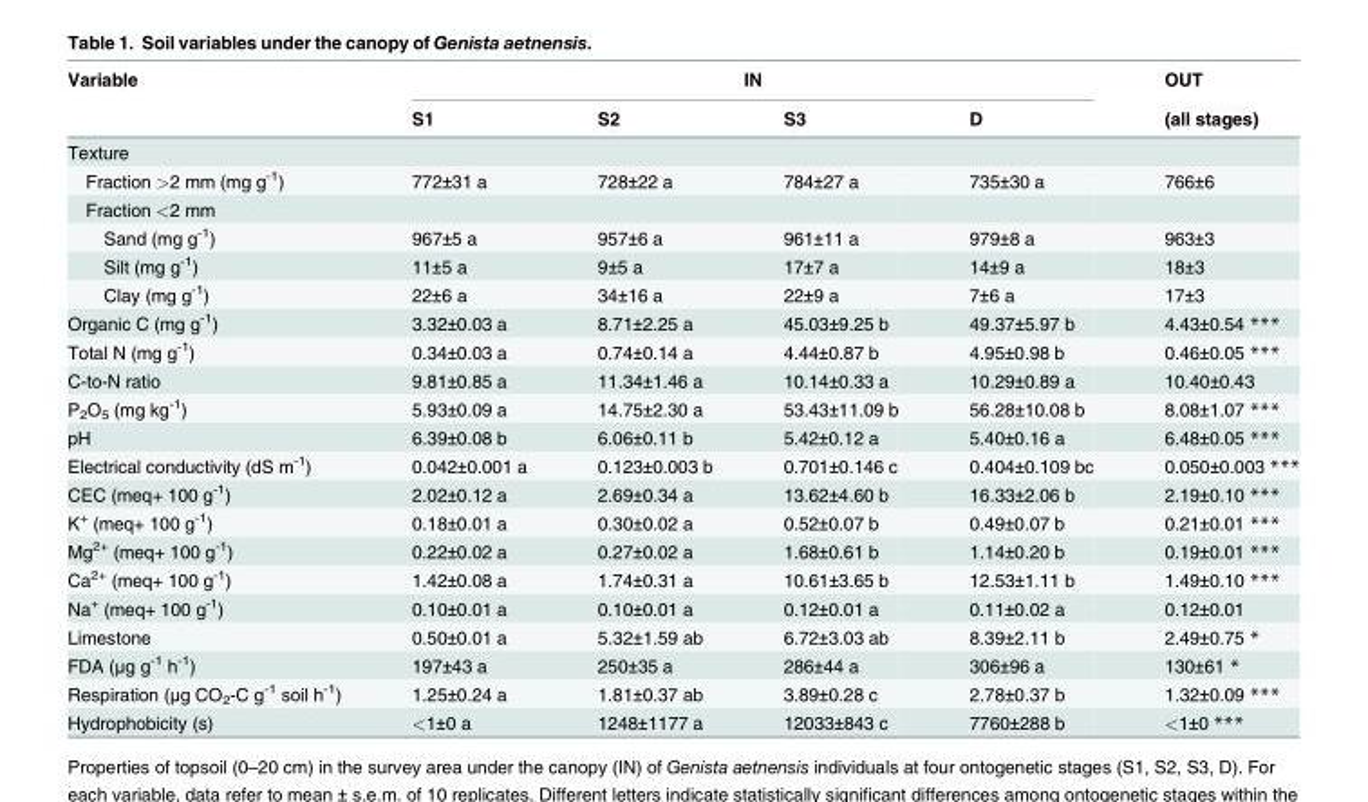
<table><thead><tr><td rowspan="2">Variable</td><td colspan="4">IN</td><td rowspan="2">OUT (all stages)</td></tr><tr><td>S1</td><td>S2</td><td>S3</td><td>D</td></tr></thead><tbody><tr><td colspan="6">Texture</td></tr><tr><td>Fraction &gt;2 mm (mg g<sup>-1</sup>)</td><td>772±31 a</td><td>728±22 a</td><td>784±27 a</td><td>735±30 a</td><td>766±6</td></tr><tr><td colspan="6">Fraction &lt;2 mm</td></tr><tr><td>Sand (mg g<sup>-1</sup>)</td><td>967±5 a</td><td>957±6 a</td><td>961±11 a</td><td>979±8 a</td><td>963±3</td></tr><tr><td>Silt (mg g<sup>-1</sup>)</td><td>11±5 a</td><td>9±5 a</td><td>17±7 a</td><td>14±9 a</td><td>18±3</td></tr><tr><td>Clay (mg g<sup>-1</sup>)</td><td>22±6 a</td><td>34±16 a</td><td>22±9 a</td><td>7±6 a</td><td>17±3</td></tr><tr><td>Organic C (mg g<sup>-1</sup>)</td><td>3.32±0.03 a</td><td>8.71±2.25 a</td><td>45.03±9.25 b</td><td>49.37±5.97 b</td><td>4.43±0.54 ***</td></tr><tr><td>Total N (mg g<sup>-1</sup>)</td><td>0.34±0.03 a</td><td>0.74±0.14 a</td><td>4.44±0.87 b</td><td>4.95±0.98 b</td><td>0.46±0.05 ***</td></tr><tr><td>C-to-N ratio</td><td>9.81±0.85 a</td><td>11.34±1.46 a</td><td>10.14±0.33 a</td><td>10.29±0.89 a</td><td>10.40±0.43</td></tr><tr><td>P<sub>2</sub>O<sub>5</sub> (mg kg<sup>-1</sup>)</td><td>5.93±0.09 a</td><td>14.75±2.30 a</td><td>53.43±11.09 b</td><td>56.28±10.08 b</td><td>8.08±1.07 ***</td></tr><tr><td>pH</td><td>6.39±0.08 b</td><td>6.06±0.11 b</td><td>5.42±0.12 a</td><td>5.40±0.16 a</td><td>6.48±0.05 ***</td></tr><tr><td>Electrical conductivity (dS m<sup>-1</sup>)</td><td>0.042±0.001 a</td><td>0.123±0.003 b</td><td>0.701±0.146 c</td><td>0.404±0.109 bc</td><td>0.050±0.003 ***</td></tr><tr><td>CEC (meq+ 100 g<sup>-1</sup>)</td><td>2.02±0.12 a</td><td>2.69±0.34 a</td><td>13.62±4.60 b</td><td>16.33±2.06 b</td><td>2.19±0.10 ***</td></tr><tr><td>K<sup>+</sup> (meq+ 100 g<sup>-1</sup>)</td><td>0.18±0.01 a</td><td>0.30±0.02 a</td><td>0.52±0.07 b</td><td>0.49±0.07 b</td><td>0.21±0.01 ***</td></tr><tr><td>Mg<sup>2+</sup> (meq+ 100 g<sup>-1</sup>)</td><td>0.22±0.02 a</td><td>0.27±0.02 a</td><td>1.68±0.61 b</td><td>1.14±0.20 b</td><td>0.19±0.01 ***</td></tr><tr><td>Ca<sup>2+</sup> (meq+ 100 g<sup>-1</sup>)</td><td>1.42±0.08 a</td><td>1.74±0.31 a</td><td>10.61±3.65 b</td><td>12.53±1.11 b</td><td>1.49±0.10 ***</td></tr><tr><td>Na<sup>+</sup> (meq+ 100 g<sup>-1</sup>)</td><td>0.10±0.01 a</td><td>0.10±0.01 a</td><td>0.12±0.01 a</td><td>0.11±0.02 a</td><td>0.12±0.01</td></tr><tr><td>Limestone</td><td>0.50±0.01 a</td><td>5.32±1.59 ab</td><td>6.72±3.03 ab</td><td>8.39±2.11 b</td><td>2.49±0.75 *</td></tr><tr><td>FDA (μg g<sup>-1</sup> h<sup>-1</sup>)</td><td>197±43 a</td><td>250±35 a</td><td>286±44 a</td><td>306±96 a</td><td>130±61 *</td></tr><tr><td>Respiration (μg CO<sub>2</sub>-C g<sup>-1</sup> soil h<sup>-1</sup>)</td><td>1.25±0.24 a</td><td>1.81±0.37 ab</td><td>3.89±0.28 c</td><td>2.78±0.37 b</td><td>1.32±0.09 ***</td></tr><tr><td>Hydrophobicity (s)</td><td>&lt;1±0 a</td><td>1248±1177 a</td><td>12033±843 c</td><td>7760±288 b</td><td>&lt;1±0 ***</td></tr></tbody></table>